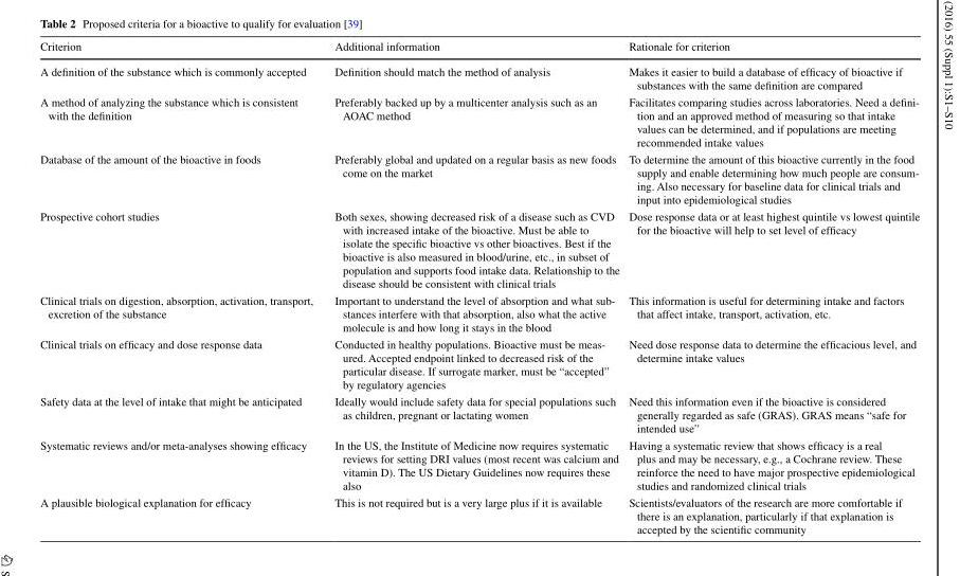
<table><thead><tr><td>Criterion</td><td>Additional information</td><td>Rationale for criterion</td></tr></thead><tbody><tr><td>A definition of the substance which is commonly accepted</td><td>Definition should match the method of analysis</td><td>Makes it easier to build a database of efficacy of bioactive if substances with the same definition are compared</td></tr><tr><td>A method of analyzing the substance which is consistent with the definition</td><td>Preferably backed up by a multicenter analysis such as an AOAC method</td><td>Facilitates comparing studies across laboratories. Need a defini- tion and an approved method of measuring so that intake values can be determined, and if populations are meeting recommended intake values</td></tr><tr><td>Database of the amount of the bioactive in foods</td><td>Preferably global and updated on a regular basis as new foods come on the market</td><td>To determine the amount of this bioactive currently in the food supply and enable determining how much people are consum- ing. Also necessary for baseline data for clinical trials and input into epidemiological studies</td></tr><tr><td>Prospective cohort studies</td><td>Both sexes, showing decreased risk of a disease such as CVD with increased intake of the bioactive. Must be able to isolate the specific bioactive vs other bioactives. Best if the bioactive is also measured in blood/urine, etc., in subset of population and supports food intake data. Relationship to the disease should be consistent with clinical trials</td><td>Dose response data or at least highest quintile vs lowest quintile for the bioactive will help to set level of efficacy</td></tr><tr><td>Clinical trials on digestion, absorption, activation, transport, excretion of the substance</td><td>Important to understand the level of absorption and what sub- stances interfere with that absorption, also what the active molecule is and how long it stays in the blood</td><td>This information is useful for determining intake and factors that affect intake, transport, activation, etc.</td></tr><tr><td>Clinical trials on efficacy and dose response data</td><td>Conducted in healthy populations. Bioactive must be meas- ured. Accepted endpoint linked to decreased risk of the particular disease. If surrogate marker, must be “accepted” by regulatory agencies</td><td>Need dose response data to determine the efficacious level, and determine intake values</td></tr><tr><td>Safety data at the level of intake that might be anticipated</td><td>Ideally would include safety data for special populations such as children, pregnant or lactating women</td><td>Need this information even if the bioactive is considered generally regarded as safe (GRAS). GRAS means “safe for intended use”</td></tr><tr><td>Systematic reviews and/or meta-analyses showing efficacy</td><td>In the US, the Institute of Medicine now requires systematic reviews for setting DRI values (most recent was calcium and vitamin D). The US Dietary Guidelines now requires these also</td><td>Having a systematic review that shows efficacy is a real plus and may be necessary, e.g., a Cochrane review. These reinforce the need to have major prospective epidemiological studies and randomized clinical trials</td></tr><tr><td>A plausible biological explanation for efficacy</td><td>This is not required but is a very large plus if it is available</td><td>Scientists/evaluators of the research are more comfortable if there is an explanation, particularly if that explanation is accepted by the scientific community</td></tr></tbody></table>